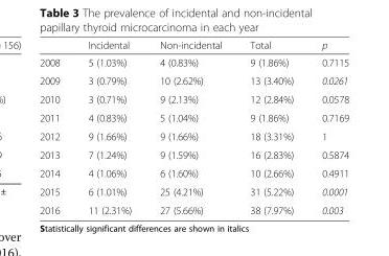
<table><thead><tr><td></td><td>Incidental</td><td>Non-incidental</td><td>Total</td><td>p</td></tr></thead><tbody><tr><td>2008</td><td>5 (1.03%)</td><td>4 (0.83%)</td><td>9 (1.86%)</td><td>0.7115</td></tr><tr><td>2009</td><td>3 (0.79%)</td><td>10 (2.62%)</td><td>13 (3.40%)</td><td>0.0261</td></tr><tr><td>2010</td><td>3 (0.71%)</td><td>9 (2.13%)</td><td>12 (2.84%)</td><td>0.0578</td></tr><tr><td>2011</td><td>4 (0.83%)</td><td>5 (1.04%)</td><td>9 (1.86%)</td><td>0.7169</td></tr><tr><td>2012</td><td>9 (1.66%)</td><td>9 (1.66%)</td><td>18 (3.31%)</td><td>1</td></tr><tr><td>2013</td><td>7 (1.24%)</td><td>9 (1.59%)</td><td>16 (2.83%)</td><td>0.5874</td></tr><tr><td>2014</td><td>4 (1.06%)</td><td>6 (1.60%)</td><td>10 (2.66%)</td><td>0.4911</td></tr><tr><td>2015</td><td>6 (1.01%)</td><td>25 (4.21%)</td><td>31 (5.22%)</td><td>0.0001</td></tr><tr><td>2016</td><td>11 (2.31%)</td><td>27 (5.66%)</td><td>38 (7.97%)</td><td>0.003</td></tr></tbody></table>